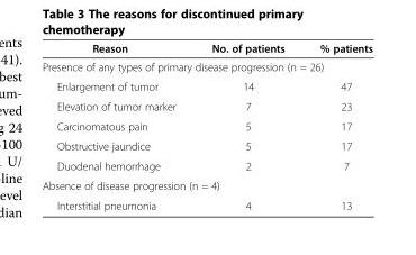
<table><thead><tr><td>Reason</td><td>No. of patients</td><td>% patients</td></tr></thead><tbody><tr><td colspan="3">Presence of any types of primary disease progression (n = 26)</td></tr><tr><td>Enlargement of tumor</td><td>14</td><td>47</td></tr><tr><td>Elevation of tumor marker</td><td>7</td><td>23</td></tr><tr><td>Carcinomatous pain</td><td>5</td><td>17</td></tr><tr><td>Obstructive jaundice</td><td>5</td><td>17</td></tr><tr><td>Duodenal hemorrhage</td><td>2</td><td>7</td></tr><tr><td colspan="3">Absence of disease progression (n = 4)</td></tr><tr><td>Interstitial pneumonia</td><td>4</td><td>13</td></tr></tbody></table>